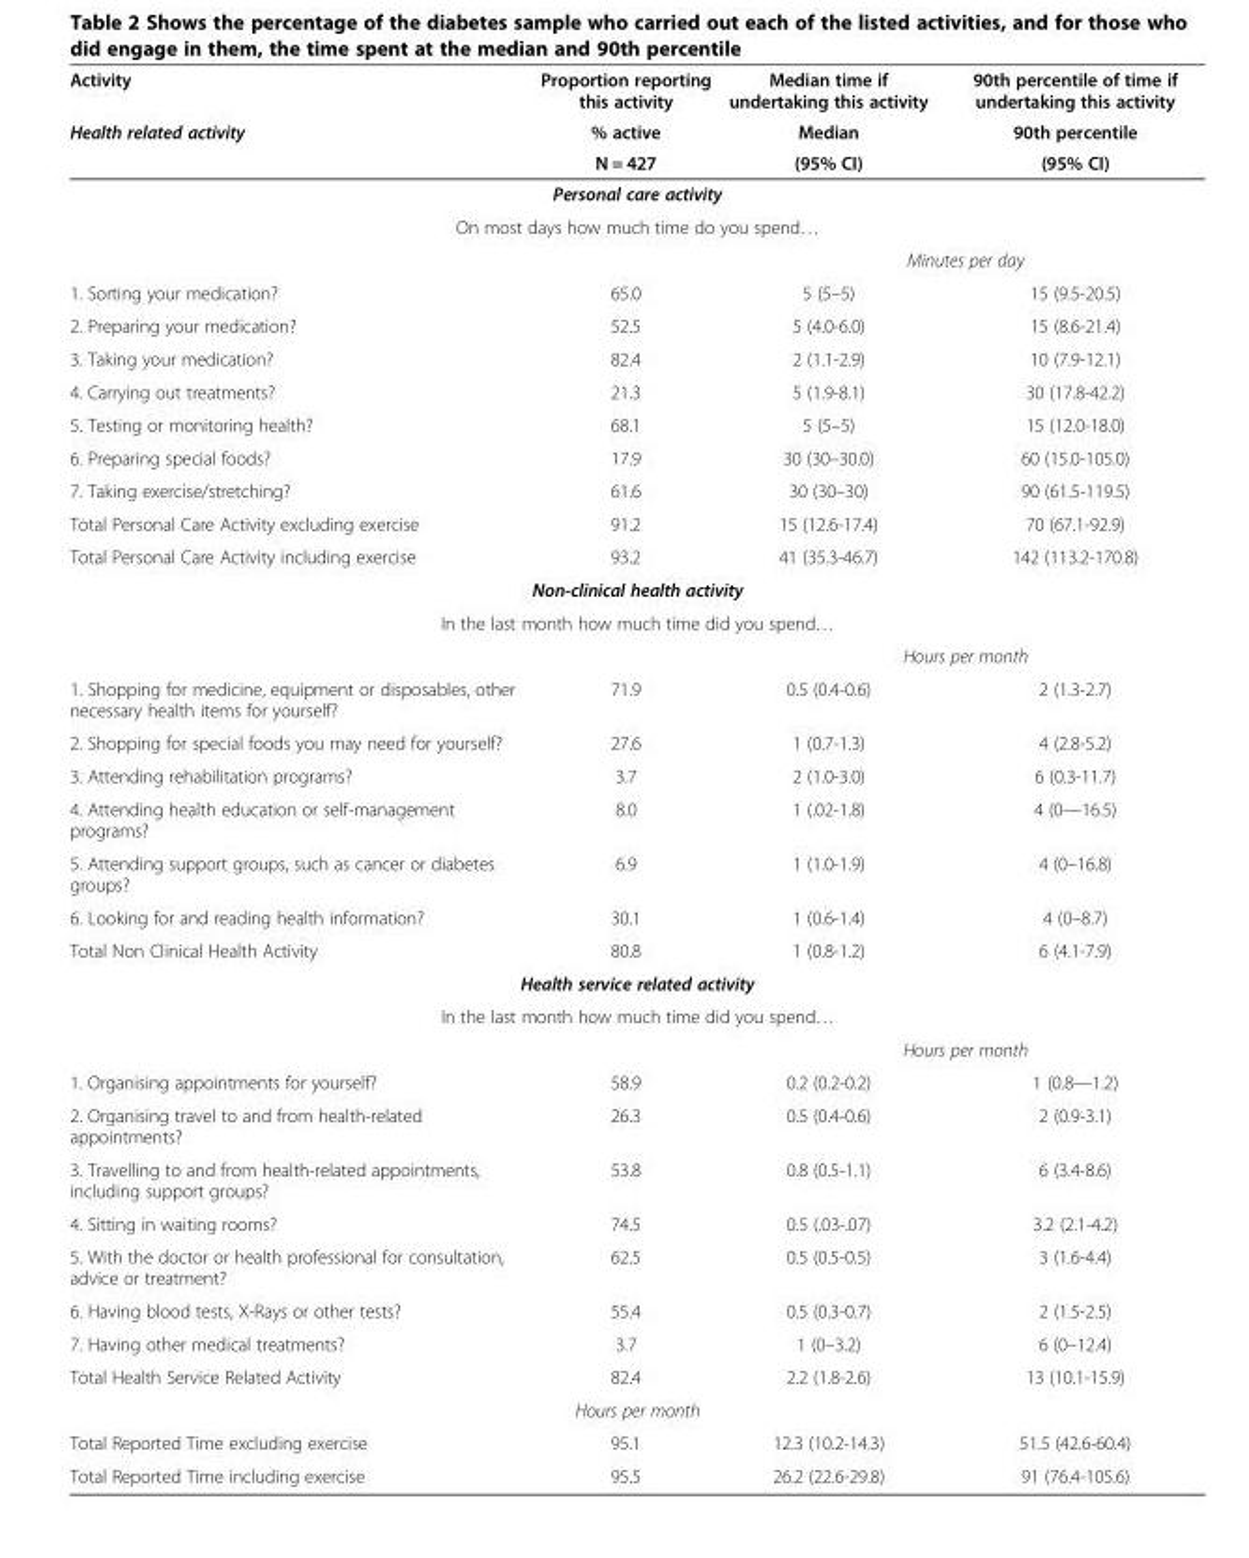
<table><thead><tr><td rowspan="3">Activity Health related activity</td><td rowspan="3">Proportion reporting this activity % active N = 427</td><td rowspan="3">Median time if undertaking this activity Median (95% CI)</td><td rowspan="3">90th percentile of time if undertaking this activity 90th percentile (95% CI)</td></tr><tr></tr><tr></tr></thead><tbody><tr><td colspan="4">Personal care activity</td></tr><tr><td colspan="4">On most days how much time do you spend…</td></tr><tr><td colspan="2"></td><td colspan="2">Minutes per day</td></tr><tr><td>1. Sorting your medication?</td><td>65.0</td><td>5 (5–5)</td><td>15 (9.5-20.5)</td></tr><tr><td>2. Preparing your medication?</td><td>52.5</td><td>5 (4.0-6.0)</td><td>15 (8.6-21.4)</td></tr><tr><td>3. Taking your medication?</td><td>82.4</td><td>2 (1.1-2.9)</td><td>10 (7.9-12.1)</td></tr><tr><td>4. Carrying out treatments?</td><td>21.3</td><td>5 (1.9-8.1)</td><td>30 (17.8-42.2)</td></tr><tr><td>5. Testing or monitoring health?</td><td>68.1</td><td>5 (5–5)</td><td>15 (12.0-18.0)</td></tr><tr><td>6. Preparing special foods?</td><td>17.9</td><td>30 (30–30.0)</td><td>60 (15.0-105.0)</td></tr><tr><td>7. Taking exercise/stretching?</td><td>61.6</td><td>30 (30–30)</td><td>90 (61.5-119.5)</td></tr><tr><td>Total Personal Care Activity excluding exercise</td><td>91.2</td><td>15 (12.6-17.4)</td><td>70 (67.1-92.9)</td></tr><tr><td>Total Personal Care Activity including exercise</td><td>93.2</td><td>41 (35.3-46.7)</td><td>142 (113.2-170.8)</td></tr><tr><td colspan="4">Non-clinical health activity</td></tr><tr><td colspan="4">In the last month how much time did you spend…</td></tr><tr><td colspan="2"></td><td colspan="2">Hours per month</td></tr><tr><td>1. Shopping for medicine, equipment or disposables, other necessary health items for yourself?</td><td>71.9</td><td>0.5 (0.4-0.6)</td><td>2 (1.3-2.7)</td></tr><tr><td>2. Shopping for special foods you may need for yourself?</td><td>27.6</td><td>1 (0.7-1.3)</td><td>4 (2.8-5.2)</td></tr><tr><td>3. Attending rehabilitation programs?</td><td>3.7</td><td>2 (1.0-3.0)</td><td>6 (0.3-11.7)</td></tr><tr><td>4. Attending health education or self-management programs?</td><td>8.0</td><td>1 (.02-1.8)</td><td>4 (0—16.5)</td></tr><tr><td>5. Attending support groups, such as cancer or diabetes groups?</td><td>6.9</td><td>1 (1.0-1.9)</td><td>4 (0–16.8)</td></tr><tr><td>6. Looking for and reading health information?</td><td>30.1</td><td>1 (0.6-1.4)</td><td>4 (0–8.7)</td></tr><tr><td>Total Non Clinical Health Activity</td><td>80.8</td><td>1 (0.8-1.2)</td><td>6 (4.1-7.9)</td></tr><tr><td colspan="4">Health service related activity</td></tr><tr><td colspan="4">In the last month how much time did you spend…</td></tr><tr><td colspan="2"></td><td colspan="2">Hours per month</td></tr><tr><td>1. Organising appointments for yourself?</td><td>58.9</td><td>0.2 (0.2-0.2)</td><td>1 (0.8—1.2)</td></tr><tr><td>2. Organising travel to and from health-related appointments?</td><td>26.3</td><td>0.5 (0.4-0.6)</td><td>2 (0.9-3.1)</td></tr><tr><td>3. Travelling to and from health-related appointments, including support groups?</td><td>53.8</td><td>0.8 (0.5-1.1)</td><td>6 (3.4-8.6)</td></tr><tr><td>4. Sitting in waiting rooms?</td><td>74.5</td><td>0.5 (.03-.07)</td><td>3.2 (2.1-4.2)</td></tr><tr><td>5. With the doctor or health professional for consultation, advice or treatment?</td><td>62.5</td><td>0.5 (0.5-0.5)</td><td>3 (1.6-4.4)</td></tr><tr><td>6. Having blood tests, X-Rays or other tests?</td><td>55.4</td><td>0.5 (0.3-0.7)</td><td>2 (1.5-2.5)</td></tr><tr><td>7. Having other medical treatments?</td><td>3.7</td><td>1 (0–3.2)</td><td>6 (0–12.4)</td></tr><tr><td>Total Health Service Related Activity</td><td>82.4</td><td>2.2 (1.8-2.6)</td><td>13 (10.1-15.9)</td></tr><tr><td colspan="4">Hours per month</td></tr><tr><td>Total Reported Time excluding exercise</td><td>95.1</td><td>12.3 (10.2-14.3)</td><td>51.5 (42.6-60.4)</td></tr><tr><td>Total Reported Time including exercise</td><td>95.5</td><td>26.2 (22.6-29.8)</td><td>91 (76.4-105.6)</td></tr></tbody></table>